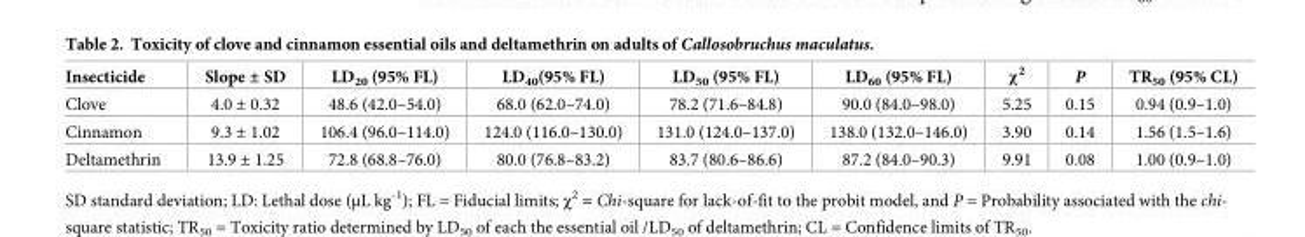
<table><thead><tr><td>Insecticide</td><td>Slope ± SD</td><td>LD<sub>20</sub> (95% FL)</td><td>LD<sub>40</sub>(95% FL)</td><td>LD<sub>50</sub> (95% FL)</td><td>LD<sub>60</sub> (95% FL)</td><td>χ<sup>2</sup></td><td>P</td><td>TR<sub>50</sub> (95% CL)</td></tr></thead><tbody><tr><td>Clove</td><td>4.0 ± 0.32</td><td>48.6 (42.0–54.0)</td><td>68.0 (62.0–74.0)</td><td>78.2 (71.6–84.8)</td><td>90.0 (84.0–98.0)</td><td>5.25</td><td>0.15</td><td>0.94 (0.9–1.0)</td></tr><tr><td>Cinnamon</td><td>9.3 ± 1.02</td><td>106.4 (96.0–114.0)</td><td>124.0 (116.0–130.0)</td><td>131.0 (124.0–137.0)</td><td>138.0 (132.0–146.0)</td><td>3.90</td><td>0.14</td><td>1.56 (1.5–1.6)</td></tr><tr><td>Deltamethrin</td><td>13.9 ± 1.25</td><td>72.8 (68.8–76.0)</td><td>80.0 (76.8–83.2)</td><td>83.7 (80.6–86.6)</td><td>87.2 (84.0–90.3)</td><td>9.91</td><td>0.08</td><td>1.00 (0.9–1.0)</td></tr></tbody></table>